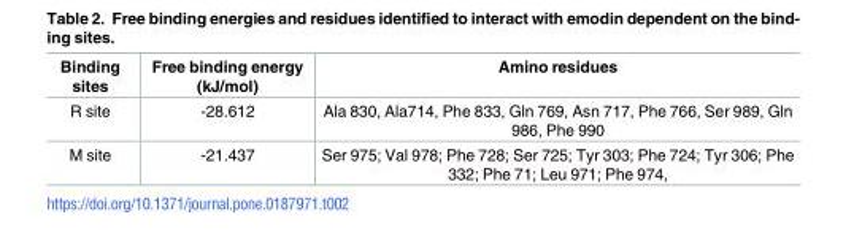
<table><thead><tr><td>Binding sites</td><td>Free binding energy (kJ/mol)</td><td>Amino residues</td></tr></thead><tbody><tr><td>R site</td><td>-28.612</td><td>Ala 830, Ala714, Phe 833, Gln 769, Asn 717, Phe 766, Ser 989, Gln 986, Phe 990</td></tr><tr><td>M site</td><td>-21.437</td><td>Ser 975; Val 978; Phe 728; Ser 725; Tyr 303; Phe 724; Tyr 306; Phe 332; Phe 71; Leu 971; Phe 974,</td></tr></tbody></table>